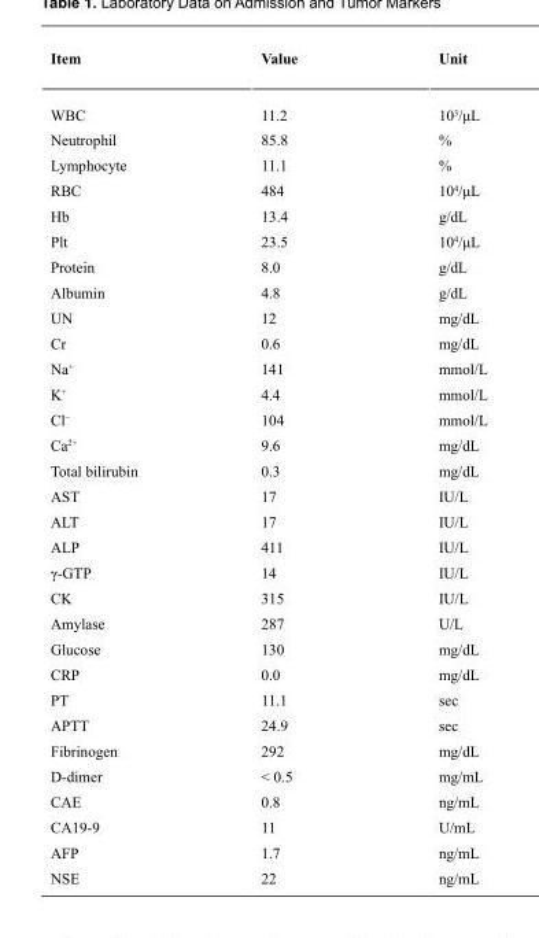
<table><thead><tr><td>Item</td><td>Value</td><td>Unit</td></tr></thead><tbody><tr><td>WBC</td><td>11.2</td><td>10<sup>3</sup>/μL</td></tr><tr><td>Neutrophil</td><td>85.8</td><td>%</td></tr><tr><td>Lymphocyte</td><td>11.1</td><td>%</td></tr><tr><td>RBC</td><td>484</td><td>10<sup>4</sup>/μL</td></tr><tr><td>Hb</td><td>13.4</td><td>g/dL</td></tr><tr><td>Plt</td><td>23.5</td><td>10<sup>4</sup>/μL</td></tr><tr><td>Protein</td><td>8.0</td><td>g/dL</td></tr><tr><td>Albumin</td><td>4.8</td><td>g/dL</td></tr><tr><td>UN</td><td>12</td><td>mg/dL</td></tr><tr><td>Cr</td><td>0.6</td><td>mg/dL</td></tr><tr><td>Na<sup>+</sup></td><td>141</td><td>mmol/L</td></tr><tr><td>K<sup>+</sup></td><td>4.4</td><td>mmol/L</td></tr><tr><td>Cl<sup>−</sup></td><td>104</td><td>mmol/L</td></tr><tr><td>Ca<sup>2+</sup></td><td>9.6</td><td>mg/dL</td></tr><tr><td>Total bilirubin</td><td>0.3</td><td>mg/dL</td></tr><tr><td>AST</td><td>17</td><td>IU/L</td></tr><tr><td>ALT</td><td>17</td><td>IU/L</td></tr><tr><td>ALP</td><td>411</td><td>IU/L</td></tr><tr><td>γ-GTP</td><td>14</td><td>IU/L</td></tr><tr><td>CK</td><td>315</td><td>IU/L</td></tr><tr><td>Amylase</td><td>287</td><td>U/L</td></tr><tr><td>Glucose</td><td>130</td><td>mg/dL</td></tr><tr><td>CRP</td><td>0.0</td><td>mg/dL</td></tr><tr><td>PT</td><td>11.1</td><td>sec</td></tr><tr><td>APTT</td><td>24.9</td><td>sec</td></tr><tr><td>Fibrinogen</td><td>292</td><td>mg/dL</td></tr><tr><td>D-dimer</td><td>&lt; 0.5</td><td>mg/mL</td></tr><tr><td>CAE</td><td>0.8</td><td>ng/mL</td></tr><tr><td>CA19-9</td><td>11</td><td>U/mL</td></tr><tr><td>AFP</td><td>1.7</td><td>ng/mL</td></tr><tr><td>NSE</td><td>22</td><td>ng/mL</td></tr></tbody></table>